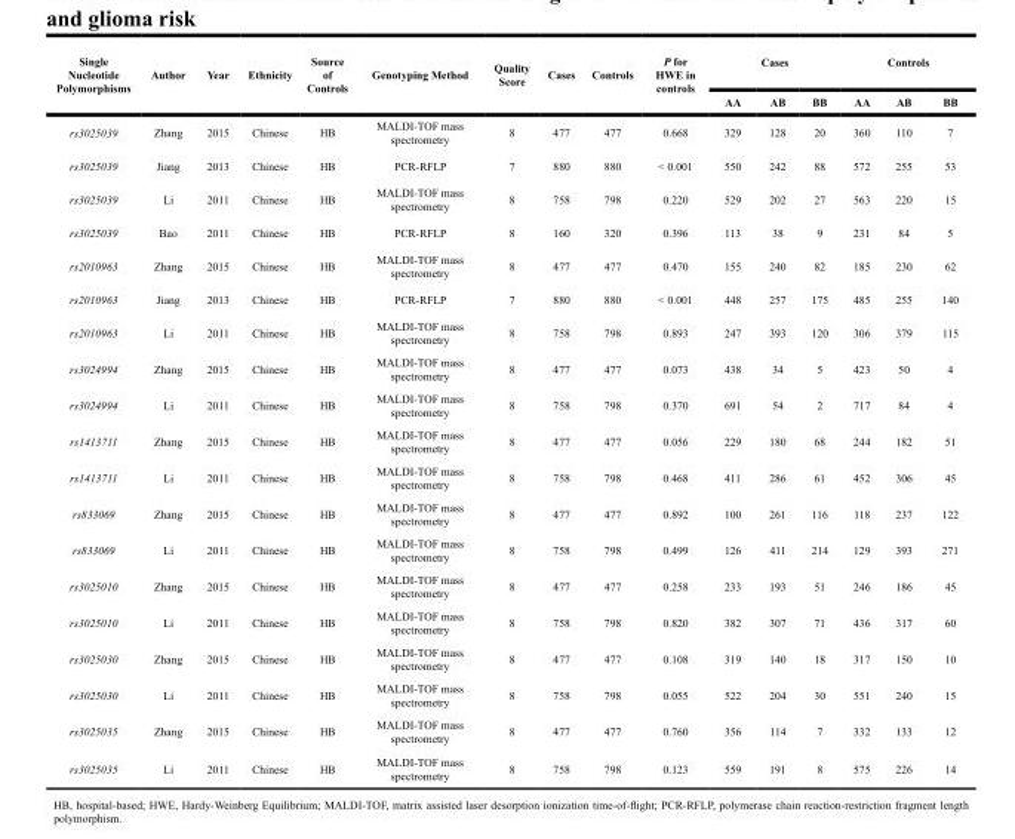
<table><thead><tr><td rowspan="2">Single Nucleotide Polymorphisms</td><td rowspan="2">Author</td><td rowspan="2">Year</td><td rowspan="2">Ethnicity</td><td rowspan="2">Source of Controls</td><td rowspan="2">Genotyping Method</td><td rowspan="2">Quality Score</td><td rowspan="2">Cases</td><td rowspan="2">Controls</td><td rowspan="2">P for HWE in controls</td><td colspan="3">Cases</td><td colspan="3">Controls</td></tr><tr><td>AA</td><td>AB</td><td>BB</td><td>AA</td><td>AB</td><td>BB</td></tr></thead><tbody><tr><td>rs3025039</td><td>Zhang</td><td>2015</td><td>Chinese</td><td>HB</td><td>MALDI-TOF mass spectrometry</td><td>8</td><td>477</td><td>477</td><td>0.668</td><td>329</td><td>128</td><td>20</td><td>360</td><td>110</td><td>7</td></tr><tr><td>rs3025039</td><td>Jiang</td><td>2013</td><td>Chinese</td><td>HB</td><td>PCR-RFLP</td><td>7</td><td>880</td><td>880</td><td>&lt; 0.001</td><td>550</td><td>242</td><td>88</td><td>572</td><td>255</td><td>53</td></tr><tr><td>rs3025039</td><td>Li</td><td>2011</td><td>Chinese</td><td>HB</td><td>MALDI-TOF mass spectrometry</td><td>8</td><td>758</td><td>798</td><td>0.220</td><td>529</td><td>202</td><td>27</td><td>563</td><td>220</td><td>15</td></tr><tr><td>rs3025039</td><td>Bao</td><td>2011</td><td>Chinese</td><td>HB</td><td>PCR-RFLP</td><td>8</td><td>160</td><td>320</td><td>0.396</td><td>113</td><td>38</td><td>9</td><td>231</td><td>84</td><td>5</td></tr><tr><td>rs2010963</td><td>Zhang</td><td>2015</td><td>Chinese</td><td>HB</td><td>MALDI-TOF mass spectrometry</td><td>8</td><td>477</td><td>477</td><td>0.470</td><td>155</td><td>240</td><td>82</td><td>185</td><td>230</td><td>62</td></tr><tr><td>rs2010963</td><td>Jiang</td><td>2013</td><td>Chinese</td><td>HB</td><td>PCR-RFLP</td><td>7</td><td>880</td><td>880</td><td>&lt; 0.001</td><td>448</td><td>257</td><td>175</td><td>485</td><td>255</td><td>140</td></tr><tr><td>rs2010963</td><td>Li</td><td>2011</td><td>Chinese</td><td>HB</td><td>MALDI-TOF mass spectrometry</td><td>8</td><td>758</td><td>798</td><td>0.893</td><td>247</td><td>393</td><td>120</td><td>306</td><td>379</td><td>115</td></tr><tr><td>rs3024994</td><td>Zhang</td><td>2015</td><td>Chinese</td><td>HB</td><td>MALDI-TOF mass spectrometry</td><td>8</td><td>477</td><td>477</td><td>0.073</td><td>438</td><td>34</td><td>5</td><td>423</td><td>50</td><td>4</td></tr><tr><td>rs3024994</td><td>Li</td><td>2011</td><td>Chinese</td><td>HB</td><td>MALDI-TOF mass spectrometry</td><td>8</td><td>758</td><td>798</td><td>0.370</td><td>691</td><td>54</td><td>2</td><td>717</td><td>84</td><td>4</td></tr><tr><td>rs1413711</td><td>Zhang</td><td>2015</td><td>Chinese</td><td>HB</td><td>MALDI-TOF mass spectrometry</td><td>8</td><td>477</td><td>477</td><td>0.056</td><td>229</td><td>180</td><td>68</td><td>244</td><td>182</td><td>51</td></tr><tr><td>rs1413711</td><td>Li</td><td>2011</td><td>Chinese</td><td>HB</td><td>MALDI-TOF mass spectrometry</td><td>8</td><td>758</td><td>798</td><td>0.468</td><td>411</td><td>286</td><td>61</td><td>452</td><td>306</td><td>45</td></tr><tr><td>rs833069</td><td>Zhang</td><td>2015</td><td>Chinese</td><td>HB</td><td>MALDI-TOF mass spectrometry</td><td>8</td><td>477</td><td>477</td><td>0.892</td><td>100</td><td>261</td><td>116</td><td>118</td><td>237</td><td>122</td></tr><tr><td>rs833069</td><td>Li</td><td>2011</td><td>Chinese</td><td>HB</td><td>MALDI-TOF mass spectrometry</td><td>8</td><td>758</td><td>798</td><td>0.499</td><td>126</td><td>411</td><td>214</td><td>129</td><td>393</td><td>271</td></tr><tr><td>rs3025010</td><td>Zhang</td><td>2015</td><td>Chinese</td><td>HB</td><td>MALDI-TOF mass spectrometry</td><td>8</td><td>477</td><td>477</td><td>0.258</td><td>233</td><td>193</td><td>51</td><td>246</td><td>186</td><td>45</td></tr><tr><td>rs3025010</td><td>Li</td><td>2011</td><td>Chinese</td><td>HB</td><td>MALDI-TOF mass spectrometry</td><td>8</td><td>758</td><td>798</td><td>0.820</td><td>382</td><td>307</td><td>71</td><td>436</td><td>317</td><td>60</td></tr><tr><td>rs3025030</td><td>Zhang</td><td>2015</td><td>Chinese</td><td>HB</td><td>MALDI-TOF mass spectrometry</td><td>8</td><td>477</td><td>477</td><td>0.108</td><td>319</td><td>140</td><td>18</td><td>317</td><td>150</td><td>10</td></tr><tr><td>rs3025030</td><td>Li</td><td>2011</td><td>Chinese</td><td>HB</td><td>MALDI-TOF mass spectrometry</td><td>8</td><td>758</td><td>798</td><td>0.055</td><td>522</td><td>204</td><td>30</td><td>551</td><td>240</td><td>15</td></tr><tr><td>rs3025035</td><td>Zhang</td><td>2015</td><td>Chinese</td><td>HB</td><td>MALDI-TOF mass spectrometry</td><td>8</td><td>477</td><td>477</td><td>0.760</td><td>356</td><td>114</td><td>7</td><td>332</td><td>133</td><td>12</td></tr><tr><td>rs3025035</td><td>Li</td><td>2011</td><td>Chinese</td><td>HB</td><td>MALDI-TOF mass spectrometry</td><td>8</td><td>758</td><td>798</td><td>0.123</td><td>559</td><td>191</td><td>8</td><td>575</td><td>226</td><td>14</td></tr></tbody></table>